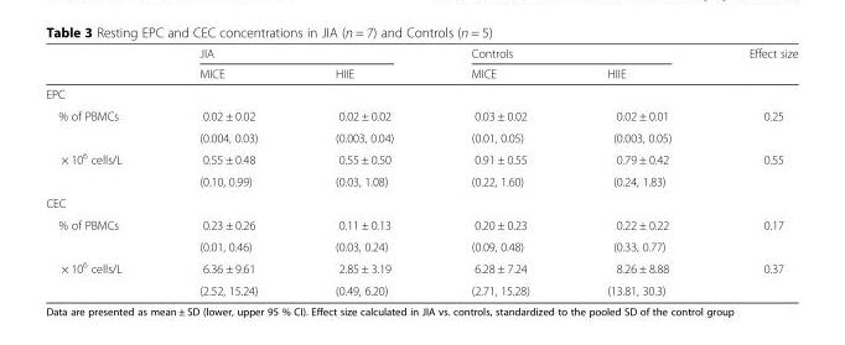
<table><thead><tr><td rowspan="2"></td><td colspan="2">JIA</td><td colspan="2">Controls</td><td rowspan="2">Effect size</td></tr><tr><td>MICE</td><td>HIIE</td><td>MICE</td><td>HIIE</td></tr></thead><tbody><tr><td colspan="6">EPC</td></tr><tr><td rowspan="2">% of PBMCs</td><td>0.02 ± 0.02</td><td>0.02 ± 0.02</td><td>0.03 ± 0.02</td><td>0.02 ± 0.01</td><td rowspan="2">0.25</td></tr><tr><td>(0.004, 0.03)</td><td>(0.003, 0.04)</td><td>(0.01, 0.05)</td><td>(0.003, 0.05)</td></tr><tr><td rowspan="2">× 10<sup>6</sup> cells/L</td><td>0.55 ± 0.48</td><td>0.55 ± 0.50</td><td>0.91 ± 0.55</td><td>0.79 ± 0.42</td><td rowspan="2">0.55</td></tr><tr><td>(0.10, 0.99)</td><td>(0.03, 1.08)</td><td>(0.22, 1.60)</td><td>(0.24, 1.83)</td></tr><tr><td colspan="6">CEC</td></tr><tr><td rowspan="2">% of PBMCs</td><td>0.23 ± 0.26</td><td>0.11 ± 0.13</td><td>0.20 ± 0.23</td><td>0.22 ± 0.22</td><td rowspan="2">0.17</td></tr><tr><td>(0.01, 0.46)</td><td>(0.03, 0.24)</td><td>(0.09, 0.48)</td><td>(0.33, 0.77)</td></tr><tr><td rowspan="2">× 10<sup>6</sup> cells/L</td><td>6.36 ± 9.61</td><td>2.85 ± 3.19</td><td>6.28 ± 7.24</td><td>8.26 ± 8.88</td><td rowspan="2">0.37</td></tr><tr><td>(2.52, 15.24)</td><td>(0.49, 6.20)</td><td>(2.71, 15.28)</td><td>(13.81, 30.3)</td></tr></tbody></table>